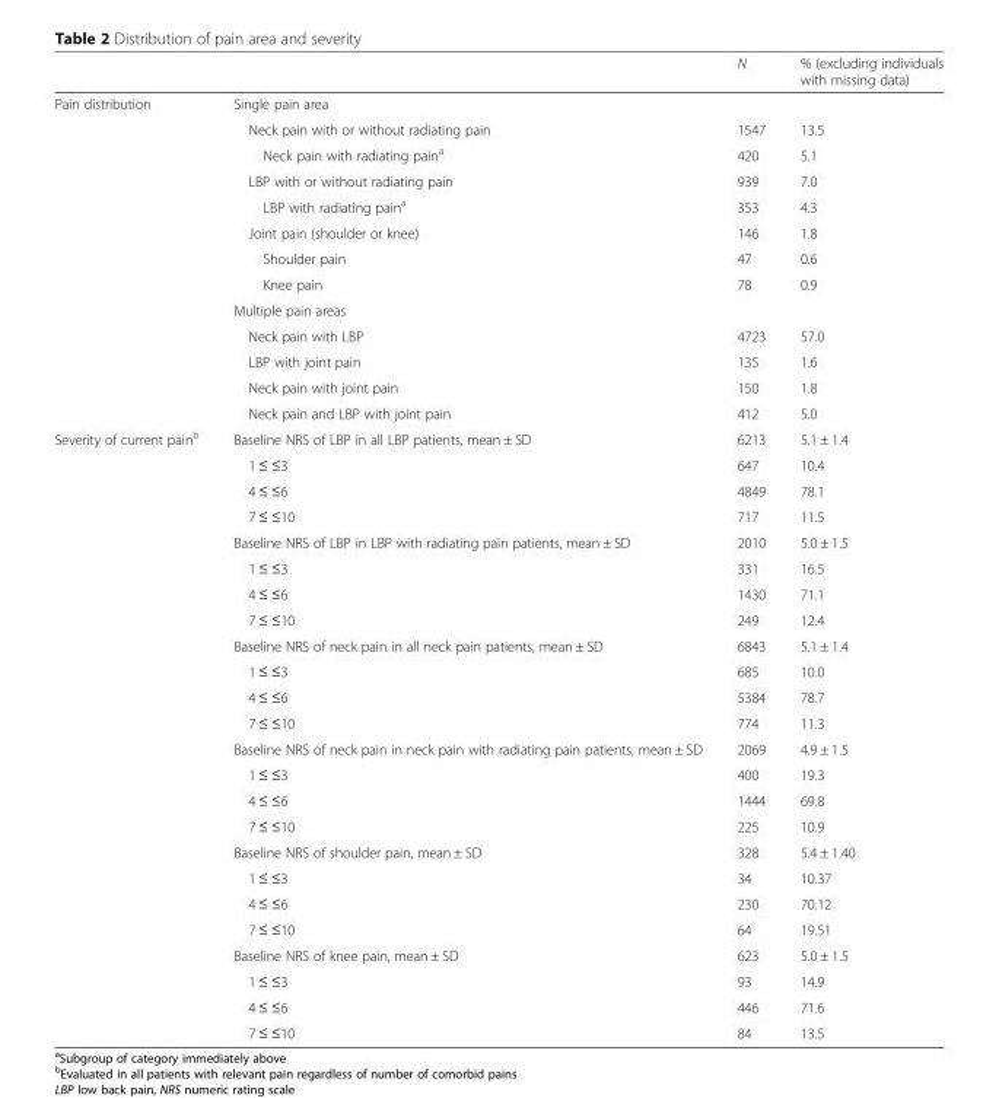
<table><thead><tr><td></td><td></td><td>N</td><td>% (excluding individuals with missing data)</td></tr></thead><tbody><tr><td rowspan="13">Pain distribution</td><td>Single pain area</td><td></td><td></td></tr><tr><td>Neck pain with or without radiating pain</td><td>1547</td><td>13.5</td></tr><tr><td>Neck pain with radiating pain<sup>a</sup></td><td>420</td><td>5.1</td></tr><tr><td>LBP with or without radiating pain</td><td>939</td><td>7.0</td></tr><tr><td>LBP with radiating pain<sup>a</sup></td><td>353</td><td>4.3</td></tr><tr><td>Joint pain (shoulder or knee)</td><td>146</td><td>1.8</td></tr><tr><td>Shoulder pain</td><td>47</td><td>0.6</td></tr><tr><td>Knee pain</td><td>78</td><td>0.9</td></tr><tr><td>Multiple pain areas</td><td></td><td></td></tr><tr><td>Neck pain with LBP</td><td>4723</td><td>57.0</td></tr><tr><td>LBP with joint pain</td><td>135</td><td>1.6</td></tr><tr><td>Neck pain with joint pain</td><td>150</td><td>1.8</td></tr><tr><td>Neck pain and LBP with joint pain</td><td>412</td><td>5.0</td></tr><tr><td rowspan="24">Severity of current pain<sup>b</sup></td><td>Baseline NRS of LBP in all LBP patients, mean ± SD</td><td>6213</td><td>5.1 ± 1.4</td></tr><tr><td>1 ≤ ≤3</td><td>647</td><td>10.4</td></tr><tr><td>4 ≤ ≤6</td><td>4849</td><td>78.1</td></tr><tr><td>7 ≤ ≤10</td><td>717</td><td>11.5</td></tr><tr><td>Baseline NRS of LBP in LBP with radiating pain patients, mean ± SD</td><td>2010</td><td>5.0 ± 1.5</td></tr><tr><td>1 ≤ ≤3</td><td>331</td><td>16.5</td></tr><tr><td>4 ≤ ≤6</td><td>1430</td><td>71.1</td></tr><tr><td>7 ≤ ≤10</td><td>249</td><td>12.4</td></tr><tr><td>Baseline NRS of neck pain in all neck pain patients, mean ± SD</td><td>6843</td><td>5.1 ± 1.4</td></tr><tr><td>1 ≤ ≤3</td><td>685</td><td>10.0</td></tr><tr><td>4 ≤ ≤6</td><td>5384</td><td>78.7</td></tr><tr><td>7 ≤ ≤10</td><td>774</td><td>11.3</td></tr><tr><td>Baseline NRS of neck pain in neck pain with radiating pain patients, mean ± SD</td><td>2069</td><td>4.9 ± 1.5</td></tr><tr><td>1 ≤ ≤3</td><td>400</td><td>19.3</td></tr><tr><td>4 ≤ ≤6</td><td>1444</td><td>69.8</td></tr><tr><td>7 ≤ ≤10</td><td>225</td><td>10.9</td></tr><tr><td>Baseline NRS of shoulder pain, mean ± SD</td><td>328</td><td>5.4 ± 1.40</td></tr><tr><td>1 ≤ ≤3</td><td>34</td><td>10.37</td></tr><tr><td>4 ≤ ≤6</td><td>230</td><td>70.12</td></tr><tr><td>7 ≤ ≤10</td><td>64</td><td>19.51</td></tr><tr><td>Baseline NRS of knee pain, mean ± SD</td><td>623</td><td>5.0 ± 1.5</td></tr><tr><td>1 ≤ ≤3</td><td>93</td><td>14.9</td></tr><tr><td>4 ≤ ≤6</td><td>446</td><td>71.6</td></tr><tr><td>7 ≤ ≤10</td><td>84</td><td>13.5</td></tr></tbody></table>